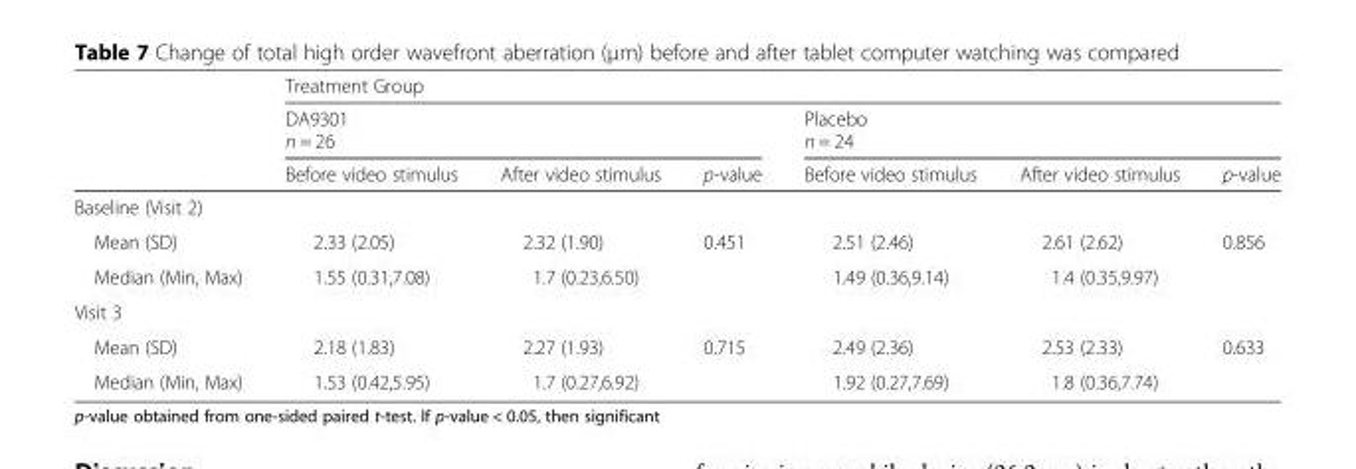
<table><thead><tr><td rowspan="4"></td><td colspan="6">Treatment Group</td></tr><tr><td rowspan="2" colspan="3">DA9301 n = 26</td><td rowspan="2" colspan="3">Placebo n = 24</td></tr><tr></tr><tr><td>Before video stimulus</td><td>After video stimulus</td><td>p-value</td><td>Before video stimulus</td><td>After video stimulus</td><td>p-value</td></tr></thead><tbody><tr><td colspan="7">Baseline (Visit 2)</td></tr><tr><td>Mean (SD)</td><td>2.33 (2.05)</td><td>2.32 (1.90)</td><td rowspan="2">0.451</td><td>2.51 (2.46)</td><td>2.61 (2.62)</td><td rowspan="2">0.856</td></tr><tr><td>Median (Min, Max)</td><td>1.55 (0.31,7.08)</td><td>1.7 (0.23,6.50)</td><td>1.49 (0.36,9.14)</td><td>1.4 (0.35,9.97)</td></tr><tr><td colspan="7">Visit 3</td></tr><tr><td>Mean (SD)</td><td>2.18 (1.83)</td><td>2.27 (1.93)</td><td rowspan="2">0.715</td><td>2.49 (2.36)</td><td>2.53 (2.33)</td><td rowspan="2">0.633</td></tr><tr><td>Median (Min, Max)</td><td>1.53 (0.42,5.95)</td><td>1.7 (0.27,6.92)</td><td>1.92 (0.27,7.69)</td><td>1.8 (0.36,7.74)</td></tr></tbody></table>